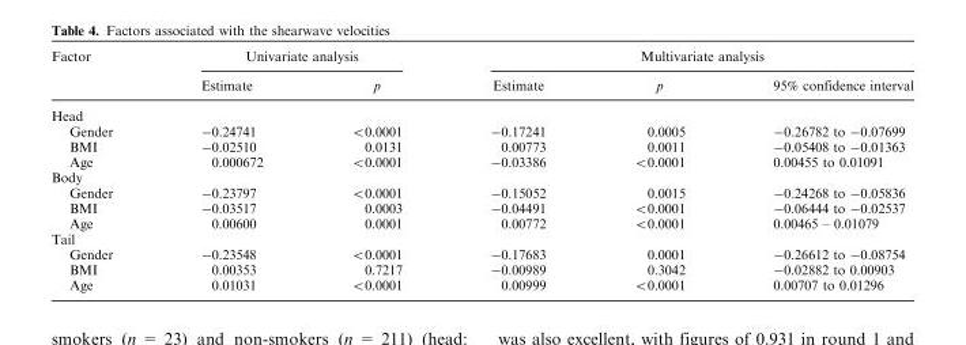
<table><thead><tr><td rowspan="2">Factor</td><td colspan="2">Univariate analysis</td><td colspan="3">Multivariate analysis</td></tr><tr><td>Estimate</td><td>p</td><td>Estimate</td><td>p</td><td>95% confidence interval</td></tr></thead><tbody><tr><td colspan="6">Head</td></tr><tr><td>Gender</td><td>-0.24741</td><td>&lt;0.0001</td><td>-0.17241</td><td>0.0005</td><td>-0.26782 to -0.07699</td></tr><tr><td>BMI</td><td>-0.02510</td><td>0.0131</td><td>0.00773</td><td>0.0011</td><td>-0.05408 to -0.01363</td></tr><tr><td>Age</td><td>0.000672</td><td>&lt;0.0001</td><td>-0.03386</td><td>&lt;0.0001</td><td>0.00455 to 0.01091</td></tr><tr><td colspan="6">Body</td></tr><tr><td>Gender</td><td>-0.23797</td><td>&lt;0.0001</td><td>-0.15052</td><td>0.0015</td><td>-0.24268 to -0.05836</td></tr><tr><td>BMI</td><td>-0.03517</td><td>0.0003</td><td>-0.04491</td><td>&lt;0.0001</td><td>-0.06444 to -0.02537</td></tr><tr><td>Age</td><td>0.00600</td><td>0.0001</td><td>0.00772</td><td>&lt;0.0001</td><td>0.00465 – 0.01079</td></tr><tr><td colspan="6">Tail</td></tr><tr><td>Gender</td><td>-0.23548</td><td>&lt;0.0001</td><td>-0.17683</td><td>0.0001</td><td>-0.26612 to -0.08754</td></tr><tr><td>BMI</td><td>0.00353</td><td>0.7217</td><td>-0.00989</td><td>0.3042</td><td>-0.02882 to 0.00903</td></tr><tr><td>Age</td><td>0.01031</td><td>&lt;0.0001</td><td>0.00999</td><td>&lt;0.0001</td><td>0.00707 to 0.01296</td></tr></tbody></table>